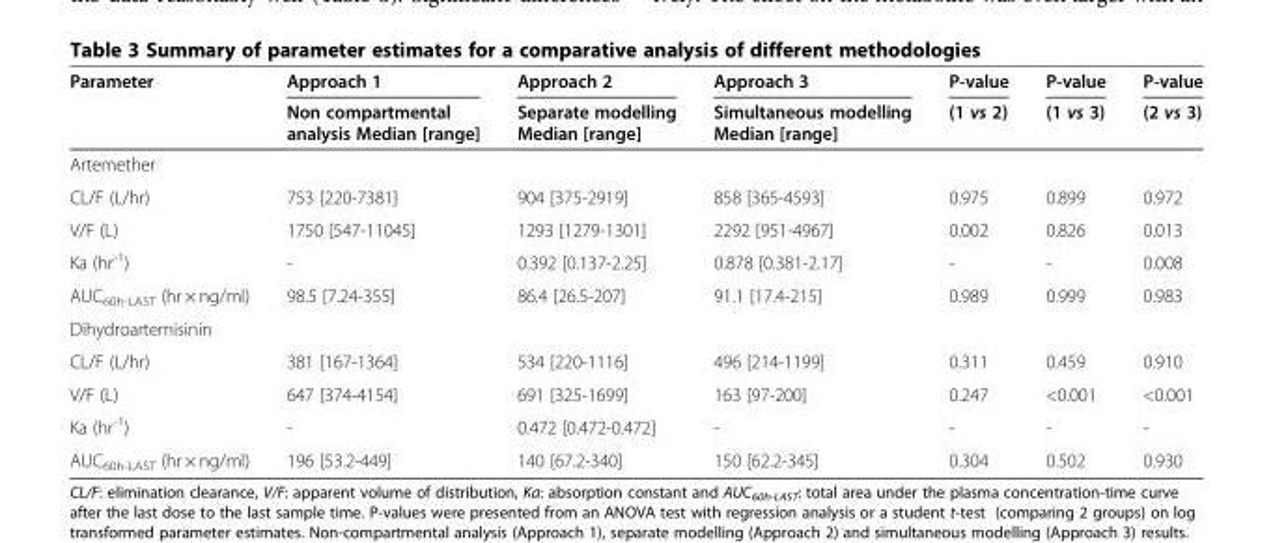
<table><thead><tr><td rowspan="2">Parameter</td><td rowspan="2">Approach 1 Non compartmental analysis Median [range]</td><td rowspan="2">Approach 2 Separate modelling Median [range]</td><td rowspan="2">Approach 3 Simultaneous modelling Median [range]</td><td rowspan="2">P-value (1 vs 2)</td><td rowspan="2">P-value (1 vs 3)</td><td rowspan="2">P-value (2 vs 3)</td></tr><tr></tr></thead><tbody><tr><td colspan="7">Artemether</td></tr><tr><td>CL/F (L/hr)</td><td>753 [220-7381]</td><td>904 [375-2919]</td><td>858 [365-4593]</td><td>0.975</td><td>0.899</td><td>0.972</td></tr><tr><td>V/F (L)</td><td>1750 [547-11045]</td><td>1293 [1279-1301]</td><td>2292 [951-4967]</td><td>0.002</td><td>0.826</td><td>0.013</td></tr><tr><td>Ka (hr<sup>-1</sup>)</td><td>-</td><td>0.392 [0.137-2.25]</td><td>0.878 [0.381-2.17]</td><td>-</td><td>-</td><td>0.008</td></tr><tr><td>AUC<sub>60h-LAST</sub> (hr × ng/ml)</td><td>98.5 [7.24-355]</td><td>86.4 [26.5-207]</td><td>91.1 [17.4-215]</td><td>0.989</td><td>0.999</td><td>0.983</td></tr><tr><td colspan="7">Dihydroartemisinin</td></tr><tr><td>CL/F (L/hr)</td><td>381 [167-1364]</td><td>534 [220-1116]</td><td>496 [214-1199]</td><td>0.311</td><td>0.459</td><td>0.910</td></tr><tr><td>V/F (L)</td><td>647 [374-4154]</td><td>691 [325-1699]</td><td>163 [97-200]</td><td>0.247</td><td>&lt;0.001</td><td>&lt;0.001</td></tr><tr><td>Ka (hr<sup>-1</sup>)</td><td>-</td><td>0.472 [0.472-0.472]</td><td>-</td><td>-</td><td>-</td><td>-</td></tr><tr><td>AUC<sub>60h-LAST</sub> (hr × ng/ml)</td><td>196 [53.2-449]</td><td>140 [67.2-340]</td><td>150 [62.2-345]</td><td>0.304</td><td>0.502</td><td>0.930</td></tr></tbody></table>